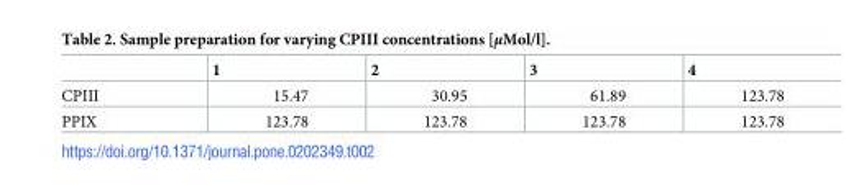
<table><thead><tr><td></td><td>1</td><td>2</td><td>3</td><td>4</td></tr></thead><tbody><tr><td>CPIII</td><td>15.47</td><td>30.95</td><td>61.89</td><td>123.78</td></tr><tr><td>PPIX</td><td>123.78</td><td>123.78</td><td>123.78</td><td>123.78</td></tr></tbody></table>